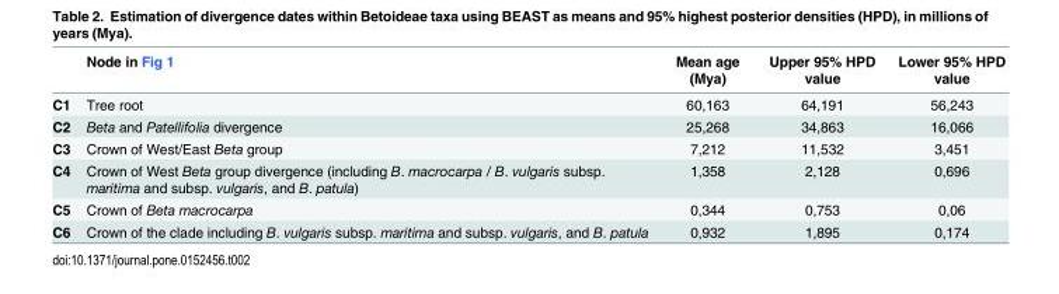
<table><thead><tr><td></td><td>Node in Fig 1</td><td>Mean age (Mya)</td><td>Upper 95% HPD value</td><td>Lower 95% HPD value</td></tr></thead><tbody><tr><td>C1</td><td>Tree root</td><td>60,163</td><td>64,191</td><td>56,243</td></tr><tr><td>C2</td><td>Beta and Patellifolia divergence</td><td>25,268</td><td>34,863</td><td>16,066</td></tr><tr><td>C3</td><td>Crown of West/East Beta group</td><td>7,212</td><td>11,532</td><td>3,451</td></tr><tr><td>C4</td><td>Crown of West Beta group divergence (including B. macrocarpa / B. vulgaris subsp. maritima and subsp. vulgaris, and B. patula)</td><td>1,358</td><td>2,128</td><td>0,696</td></tr><tr><td>C5</td><td>Crown of Beta macrocarpa</td><td>0,344</td><td>0,753</td><td>0,06</td></tr><tr><td>C6</td><td>Crown of the clade including B. vulgaris subsp. maritima and subsp. vulgaris, and B. patula</td><td>0,932</td><td>1,895</td><td>0,174</td></tr></tbody></table>